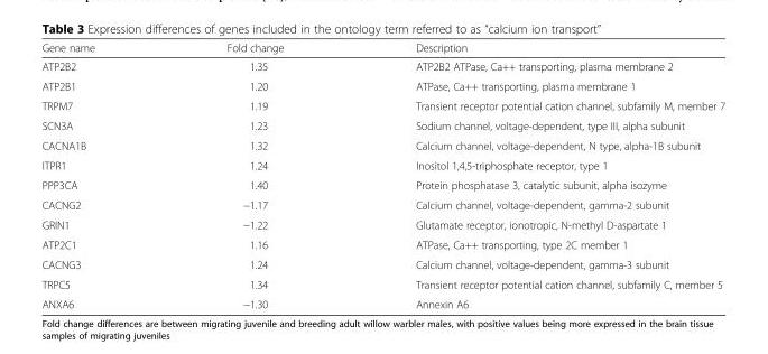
<table><thead><tr><td>Gene name</td><td>Fold change</td><td>Description</td></tr></thead><tbody><tr><td>ATP2B2</td><td>1.35</td><td>ATP2B2 ATPase, Ca++ transporting, plasma membrane 2</td></tr><tr><td>ATP2B1</td><td>1.20</td><td>ATPase, Ca++ transporting, plasma membrane 1</td></tr><tr><td>TRPM7</td><td>1.19</td><td>Transient receptor potential cation channel, subfamily M, member 7</td></tr><tr><td>SCN3A</td><td>1.23</td><td>Sodium channel, voltage-dependent, type III, alpha subunit</td></tr><tr><td>CACNA1B</td><td>1.32</td><td>Calcium channel, voltage-dependent, N type, alpha-1B subunit</td></tr><tr><td>ITPR1</td><td>1.24</td><td>Inositol 1,4,5-triphosphate receptor, type 1</td></tr><tr><td>PPP3CA</td><td>1.40</td><td>Protein phosphatase 3, catalytic subunit, alpha isozyme</td></tr><tr><td>CACNG2</td><td>−1.17</td><td>Calcium channel, voltage-dependent, gamma-2 subunit</td></tr><tr><td>GRIN1</td><td>−1.22</td><td>Glutamate receptor, ionotropic, N-methyl D-aspartate 1</td></tr><tr><td>ATP2C1</td><td>1.16</td><td>ATPase, Ca++ transporting, type 2C member 1</td></tr><tr><td>CACNG3</td><td>1.24</td><td>Calcium channel, voltage-dependent, gamma-3 subunit</td></tr><tr><td>TRPC5</td><td>1.34</td><td>Transient receptor potential cation channel, subfamily C, member 5</td></tr><tr><td>ANXA6</td><td>−1.30</td><td>Annexin A6</td></tr></tbody></table>